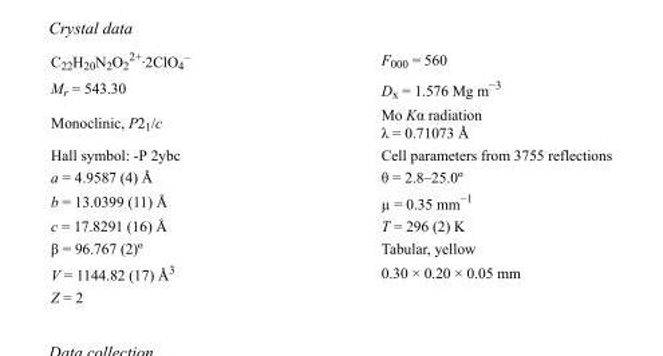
<table><tbody><tr><td>C<sub>22</sub>H<sub>20</sub>N<sub>2</sub>O<sub>2</sub> <sup>2+</sup>·2ClO<sub>4</sub> <sup>–</sup></td><td>F<sub>000</sub> = 560</td></tr><tr><td>M<sub>r</sub> = 543.30</td><td>D<sub>x</sub> = 1.576 Mg m<sup>−3</sup></td></tr><tr><td>Monoclinic, P2<sub>1</sub>/c</td><td>Mo Kα radiation λ = 0.71073 Å</td></tr><tr><td>Hall symbol: -P 2ybc</td><td>Cell parameters from 3755 reflections</td></tr><tr><td>a = 4.9587 (4) Å</td><td>θ = 2.8–25.0º</td></tr><tr><td>b = 13.0399 (11) Å</td><td>µ = 0.35 mm<sup>−1</sup></td></tr><tr><td>c = 17.8291 (16) Å</td><td>T = 296 (2) K</td></tr><tr><td>β = 96.767 (2)º</td><td>Tabular, yellow</td></tr><tr><td>V = 1144.82 (17) Å<sup>3</sup></td><td>0.30 × 0.20 × 0.05 mm</td></tr><tr><td>Z = 2</td><td></td></tr></tbody></table>